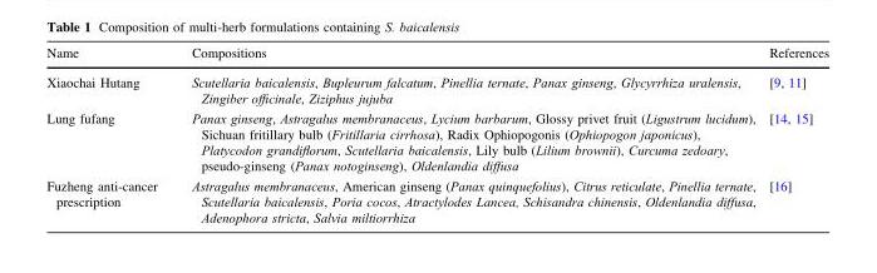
<table><thead><tr><td>Name</td><td>Compositions</td><td>References</td></tr></thead><tbody><tr><td>Xiaochai Hutang</td><td>Scutellaria baicalensis, Bupleurum falcatum, Pinellia ternate, Panax ginseng, Glycyrrhiza uralensis, Zingiber officinale, Ziziphus jujuba</td><td>[9, 11]</td></tr><tr><td>Lung fufang</td><td>Panax ginseng, Astragalus membranaceus, Lycium barbarum, Glossy privet fruit (Ligustrum lucidum), Sichuan fritillary bulb (Fritillaria cirrhosa), Radix Ophiopogonis (Ophiopogon japonicus), Platycodon grandiflorum, Scutellaria baicalensis, Lily bulb (Lilium brownii), Curcuma zedoary, pseudo-ginseng (Panax notoginseng), Oldenlandia diffusa</td><td>[14, 15]</td></tr><tr><td>Fuzheng anti-cancer prescription</td><td>Astragalus membranaceus, American ginseng (Panax quinquefolius), Citrus reticulate, Pinellia ternate, Scutellaria baicalensis, Poria cocos, Atractylodes Lancea, Schisandra chinensis, Oldenlandia diffusa, Adenophora stricta, Salvia miltiorrhiza</td><td>[16]</td></tr></tbody></table>